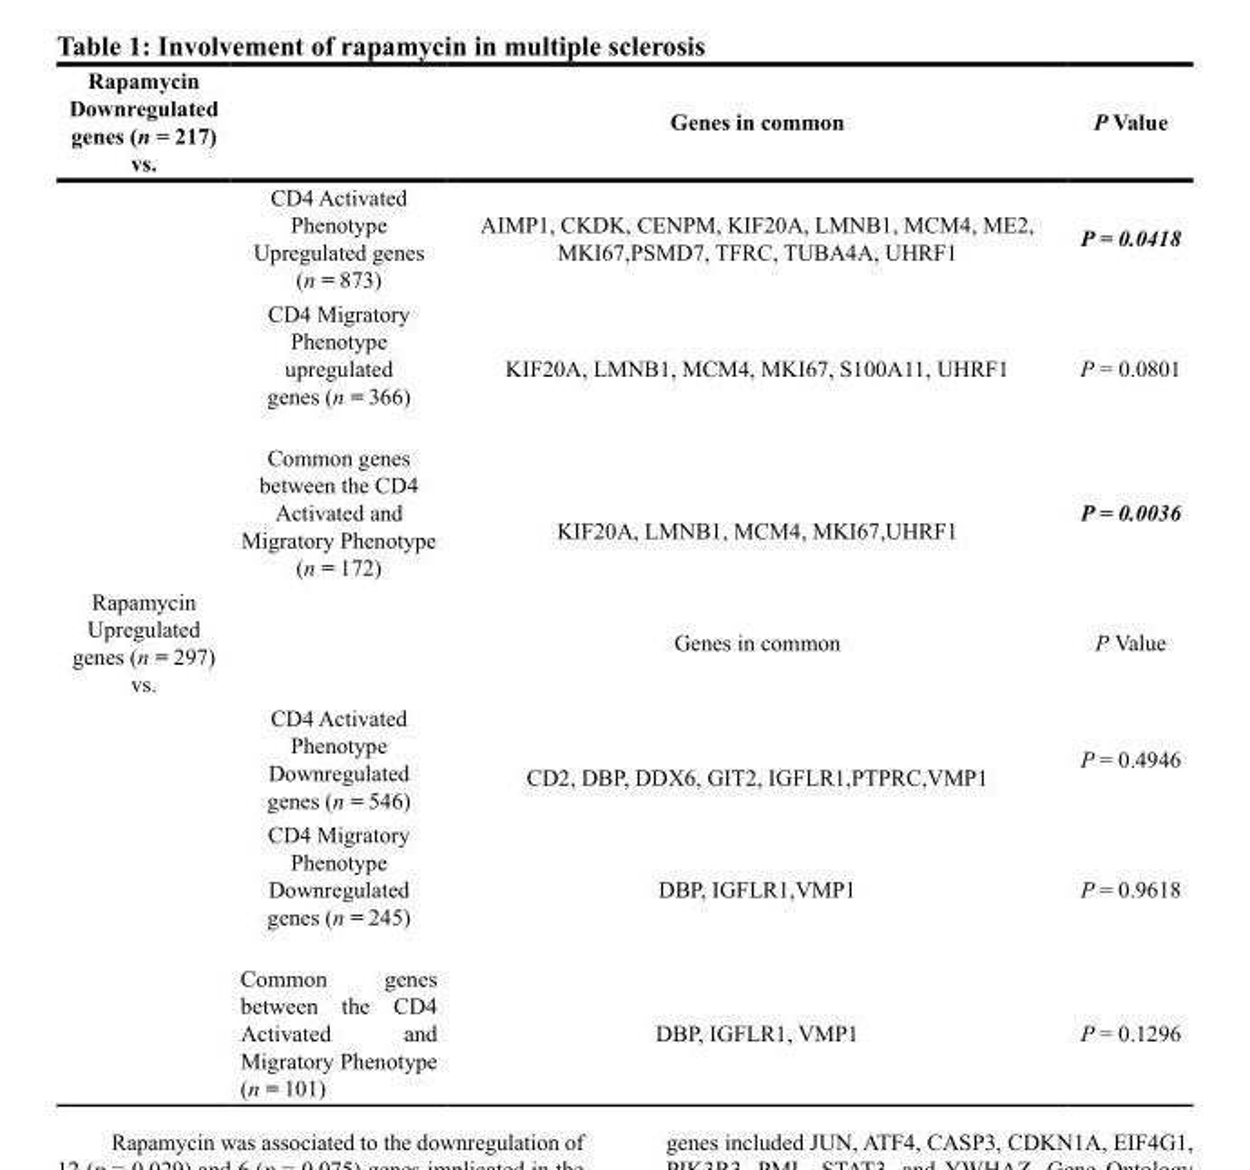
<table><thead><tr><td>Rapamycin Downregulated genes (n = 217) vs.</td><td></td><td>Genes in common</td><td>P Value</td></tr></thead><tbody><tr><td></td><td>CD4 Activated Phenotype Upregulated genes (n = 873)</td><td>AIMP1, CKDK, CENPM, KIF20A, LMNB1, MCM4, ME2, MKI67,PSMD7, TFRC, TUBA4A, UHRF1</td><td>P = 0.0418</td></tr><tr><td></td><td>CD4 Migratory Phenotype upregulated genes (n = 366)</td><td>KIF20A, LMNB1, MCM4, MKI67, S100A11, UHRF1</td><td>P = 0.0801</td></tr><tr><td></td><td>Common genes between the CD4 Activated and Migratory Phenotype (n = 172)</td><td>KIF20A, LMNB1, MCM4, MKI67,UHRF1</td><td>P = 0.0036</td></tr><tr><td rowspan="4">Rapamycin Upregulated genes (n = 297) vs.</td><td></td><td>Genes in common</td><td>P Value</td></tr><tr><td>CD4 Activated Phenotype Downregulated genes (n = 546)</td><td>CD2, DBP, DDX6, GIT2, IGFLR1,PTPRC,VMP1</td><td>P = 0.4946</td></tr><tr><td>CD4 Migratory Phenotype Downregulated genes (n = 245)</td><td>DBP, IGFLR1,VMP1</td><td>P = 0.9618</td></tr><tr><td>Common genes between the CD4 Activated and Migratory Phenotype (n = 101)</td><td>DBP, IGFLR1, VMP1</td><td>P = 0.1296</td></tr></tbody></table>